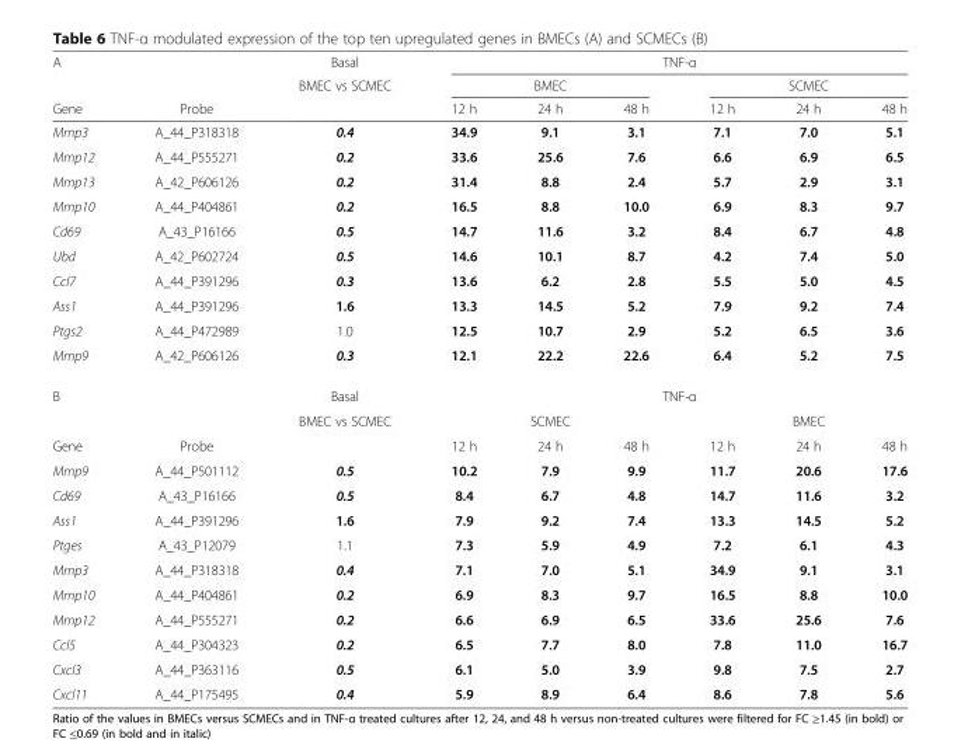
<table><thead><tr><td rowspan="3">A Gene</td><td rowspan="3">Probe</td><td rowspan="3">Basal BMEC vs SCMEC</td><td colspan="6">TNF-α</td></tr><tr><td colspan="3">BMEC</td><td colspan="3">SCMEC</td></tr><tr><td>12 h</td><td>24 h</td><td>48 h</td><td>12 h</td><td>24 h</td><td>48 h</td></tr></thead><tbody><tr><td>Mmp3</td><td>A_44_P318318</td><td>0.4</td><td>34.9</td><td>9.1</td><td>3.1</td><td>7.1</td><td>7.0</td><td>5.1</td></tr><tr><td>Mmp12</td><td>A_44_P555271</td><td>0.2</td><td>33.6</td><td>25.6</td><td>7.6</td><td>6.6</td><td>6.9</td><td>6.5</td></tr><tr><td>Mmp13</td><td>A_42_P606126</td><td>0.2</td><td>31.4</td><td>8.8</td><td>2.4</td><td>5.7</td><td>2.9</td><td>3.1</td></tr><tr><td>Mmp10</td><td>A_44_P404861</td><td>0.2</td><td>16.5</td><td>8.8</td><td>10.0</td><td>6.9</td><td>8.3</td><td>9.7</td></tr><tr><td>Cd69</td><td>A_43_P16166</td><td>0.5</td><td>14.7</td><td>11.6</td><td>3.2</td><td>8.4</td><td>6.7</td><td>4.8</td></tr><tr><td>Ubd</td><td>A_42_P602724</td><td>0.5</td><td>14.6</td><td>10.1</td><td>8.7</td><td>4.2</td><td>7.4</td><td>5.0</td></tr><tr><td>Ccl7</td><td>A_44_P391296</td><td>0.3</td><td>13.6</td><td>6.2</td><td>2.8</td><td>5.5</td><td>5.0</td><td>4.5</td></tr><tr><td>Ass1</td><td>A_44_P391296</td><td>1.6</td><td>13.3</td><td>14.5</td><td>5.2</td><td>7.9</td><td>9.2</td><td>7.4</td></tr><tr><td>Ptgs2</td><td>A_44_P472989</td><td>1.0</td><td>12.5</td><td>10.7</td><td>2.9</td><td>5.2</td><td>6.5</td><td>3.6</td></tr><tr><td>Mmp9</td><td>A_42_P606126</td><td>0.3</td><td>12.1</td><td>22.2</td><td>22.6</td><td>6.4</td><td>5.2</td><td>7.5</td></tr><tr><td rowspan="2">B</td><td></td><td>Basal</td><td colspan="6">TNF-α</td></tr><tr><td></td><td rowspan="2">BMEC vs SCMEC</td><td colspan="3">SCMEC</td><td colspan="3">BMEC</td></tr><tr><td>Gene</td><td>Probe</td><td>12 h</td><td>24 h</td><td>48 h</td><td>12 h</td><td>24 h</td><td>48 h</td></tr><tr><td>Mmp9</td><td>A_44_P501112</td><td>0.5</td><td>10.2</td><td>7.9</td><td>9.9</td><td>11.7</td><td>20.6</td><td>17.6</td></tr><tr><td>Cd69</td><td>A_43_P16166</td><td>0.5</td><td>8.4</td><td>6.7</td><td>4.8</td><td>14.7</td><td>11.6</td><td>3.2</td></tr><tr><td>Ass1</td><td>A_44_P391296</td><td>1.6</td><td>7.9</td><td>9.2</td><td>7.4</td><td>13.3</td><td>14.5</td><td>5.2</td></tr><tr><td>Ptges</td><td>A_43_P12079</td><td>1.1</td><td>7.3</td><td>5.9</td><td>4.9</td><td>7.2</td><td>6.1</td><td>4.3</td></tr><tr><td>Mmp3</td><td>A_44_P318318</td><td>0.4</td><td>7.1</td><td>7.0</td><td>5.1</td><td>34.9</td><td>9.1</td><td>3.1</td></tr><tr><td>Mmp10</td><td>A_44_P404861</td><td>0.2</td><td>6.9</td><td>8.3</td><td>9.7</td><td>16.5</td><td>8.8</td><td>10.0</td></tr><tr><td>Mmp12</td><td>A_44_P555271</td><td>0.2</td><td>6.6</td><td>6.9</td><td>6.5</td><td>33.6</td><td>25.6</td><td>7.6</td></tr><tr><td>Ccl5</td><td>A_44_P304323</td><td>0.2</td><td>6.5</td><td>7.7</td><td>8.0</td><td>7.8</td><td>11.0</td><td>16.7</td></tr><tr><td>Cxcl3</td><td>A_44_P363116</td><td>0.5</td><td>6.1</td><td>5.0</td><td>3.9</td><td>9.8</td><td>7.5</td><td>2.7</td></tr><tr><td>Cxcl11</td><td>A_44_P175495</td><td>0.4</td><td>5.9</td><td>8.9</td><td>6.4</td><td>8.6</td><td>7.8</td><td>5.6</td></tr></tbody></table>